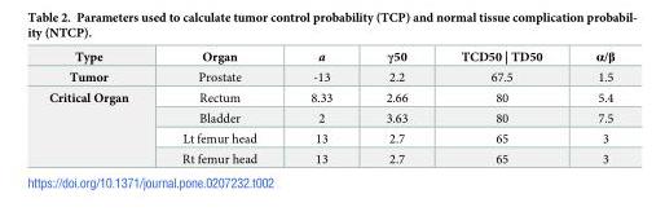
<table><thead><tr><td>Type</td><td>Organ</td><td>a</td><td>γ50</td><td>TCD50 | TD50</td><td>α/β</td></tr></thead><tbody><tr><td>Tumor</td><td>Prostate</td><td>-13</td><td>2.2</td><td>67.5</td><td>1.5</td></tr><tr><td rowspan="4">Critical Organ</td><td>Rectum</td><td>8.33</td><td>2.66</td><td>80</td><td>5.4</td></tr><tr><td>Bladder</td><td>2</td><td>3.63</td><td>80</td><td>7.5</td></tr><tr><td>Lt femur head</td><td>13</td><td>2.7</td><td>65</td><td>3</td></tr><tr><td>Rt femur head</td><td>13</td><td>2.7</td><td>65</td><td>3</td></tr></tbody></table>